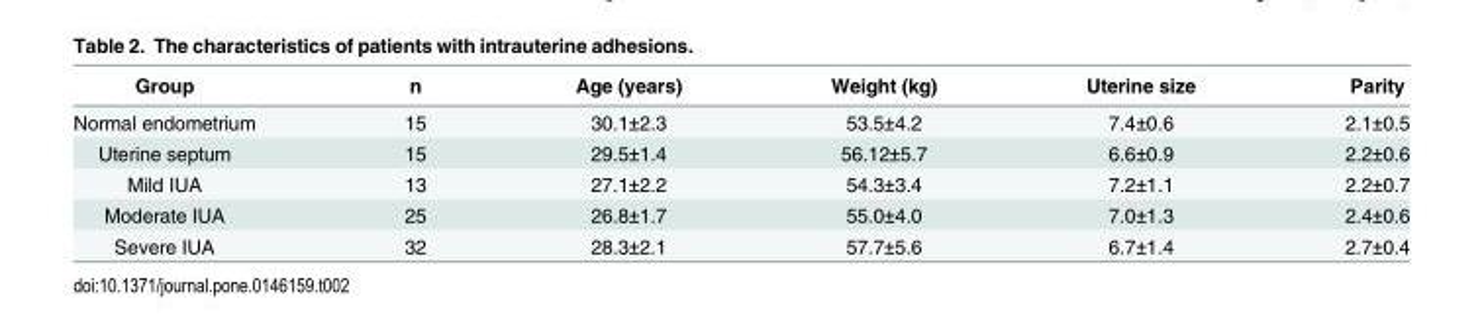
<table><thead><tr><td>Group</td><td>n</td><td>Age (years)</td><td>Weight (kg)</td><td>Uterine size</td><td>Parity</td></tr></thead><tbody><tr><td>Normal endometrium</td><td>15</td><td>30.1±2.3</td><td>53.5±4.2</td><td>7.4±0.6</td><td>2.1±0.5</td></tr><tr><td>Uterine septum</td><td>15</td><td>29.5±1.4</td><td>56.12±5.7</td><td>6.6±0.9</td><td>2.2±0.6</td></tr><tr><td>Mild IUA</td><td>13</td><td>27.1±2.2</td><td>54.3±3.4</td><td>7.2±1.1</td><td>2.2±0.7</td></tr><tr><td>Moderate IUA</td><td>25</td><td>26.8±1.7</td><td>55.0±4.0</td><td>7.0±1.3</td><td>2.4±0.6</td></tr><tr><td>Severe IUA</td><td>32</td><td>28.3±2.1</td><td>57.7±5.6</td><td>6.7±1.4</td><td>2.7±0.4</td></tr></tbody></table>